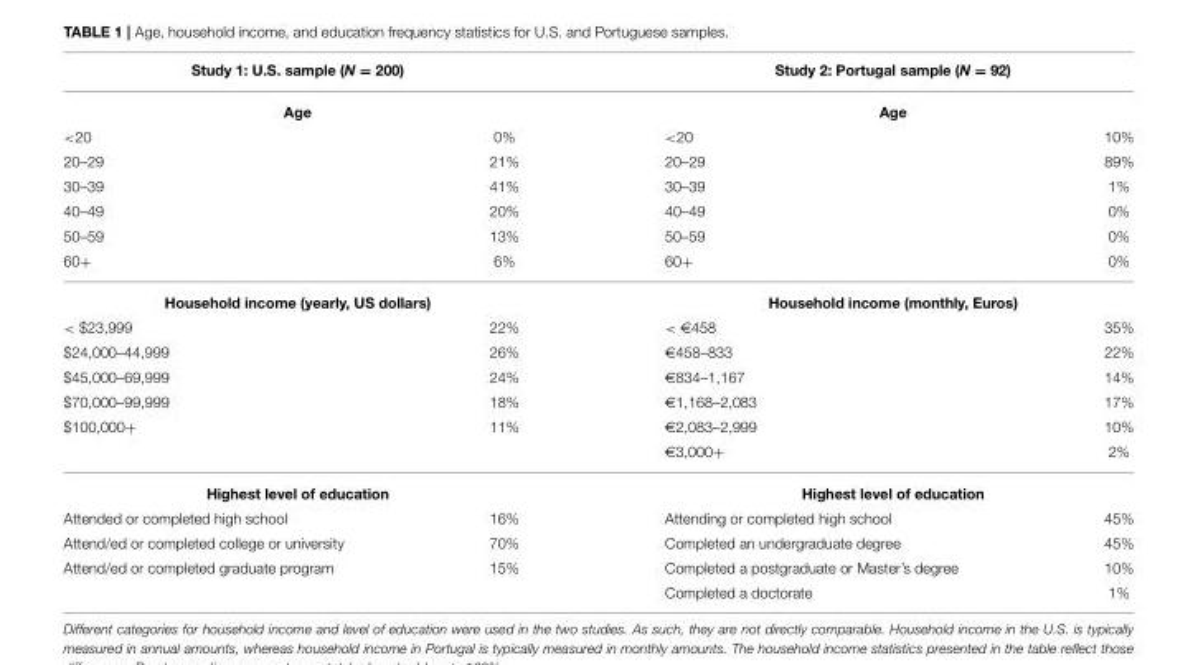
<table><thead><tr><td rowspan="2" colspan="2">Study 1: U.S. sample (N = 200) Age</td><td rowspan="2" colspan="2">Study 2: Portugal sample (N = 92) Age</td></tr><tr></tr><tr><td>&lt;20</td><td>0%</td><td>&lt;20</td><td>10%</td></tr></thead><tbody><tr><td>20–29</td><td>21%</td><td>20–29</td><td>89%</td></tr><tr><td>30–39</td><td>41%</td><td>30–39</td><td>1%</td></tr><tr><td>40–49</td><td>20%</td><td>40–49</td><td>0%</td></tr><tr><td>50–59</td><td>13%</td><td>50–59</td><td>0%</td></tr><tr><td>60+</td><td>6%</td><td>60+</td><td>0%</td></tr><tr><td colspan="2">Household income (yearly, US dollars)</td><td colspan="2">Household income (monthly, Euros)</td></tr><tr><td>&lt; $23,999</td><td>22%</td><td>&lt; €458</td><td>35%</td></tr><tr><td>$24,000–44,999</td><td>26%</td><td>€458–833</td><td>22%</td></tr><tr><td>$45,000–69,999</td><td>24%</td><td>€834–1,167</td><td>14%</td></tr><tr><td>$70,000–99,999</td><td>18%</td><td>€1,168–2,083</td><td>17%</td></tr><tr><td rowspan="2">$100,000+</td><td>11%</td><td>€2,083–2,999</td><td>10%</td></tr><tr><td></td><td>€3,000+</td><td>2%</td></tr><tr><td colspan="2">Highest level of education</td><td colspan="2">Highest level of education</td></tr><tr><td>Attended or completed high school</td><td>16%</td><td>Attending or completed high school</td><td>45%</td></tr><tr><td>Attend/ed or completed college or university</td><td>70%</td><td>Completed an undergraduate degree</td><td>45%</td></tr><tr><td rowspan="2">Attend/ed or completed graduate program</td><td>15%</td><td>Completed a postgraduate or Master’s degree</td><td>10%</td></tr><tr><td></td><td>Completed a doctorate</td><td>1%</td></tr></tbody></table>